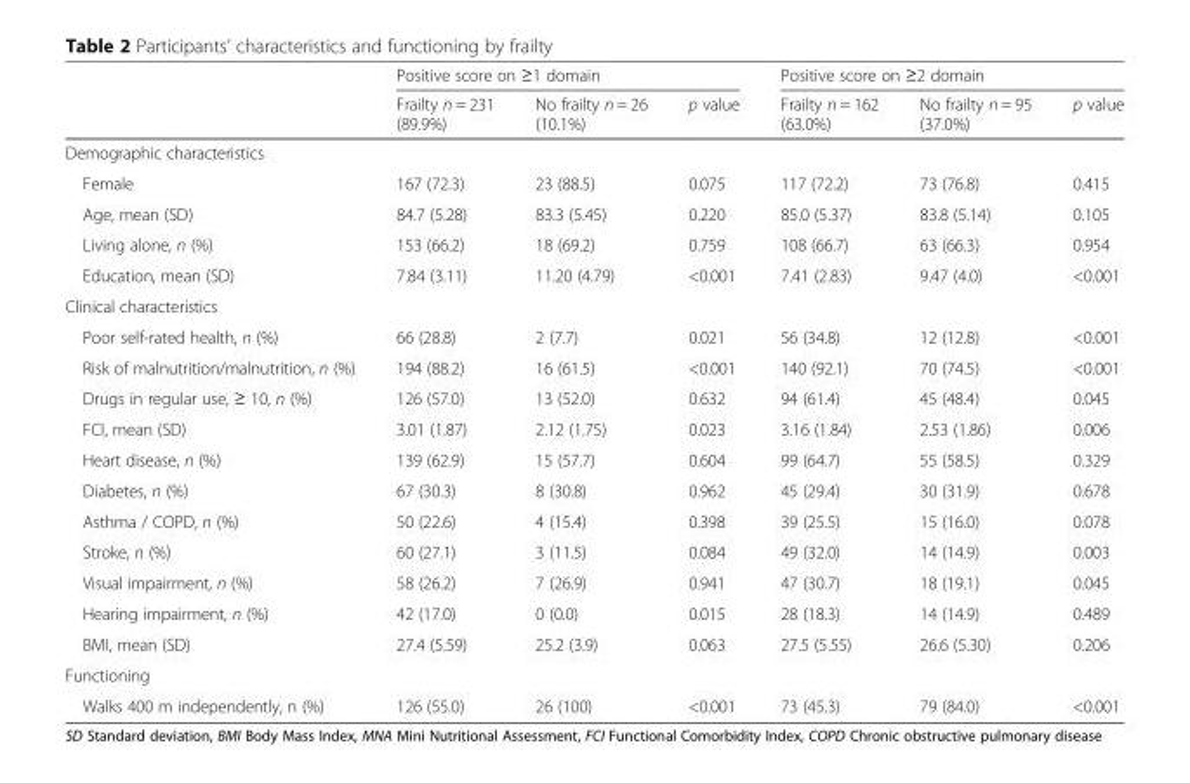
<table><thead><tr><td rowspan="2"></td><td colspan="3">Positive score on ≥1 domain</td><td colspan="3">Positive score on ≥2 domain</td></tr><tr><td>Frailty n = 231 (89.9%)</td><td>No frailty n = 26 (10.1%)</td><td>p value</td><td>Frailty n = 162 (63.0%)</td><td>No frailty n = 95 (37.0%)</td><td>p value</td></tr></thead><tbody><tr><td colspan="7">Demographic characteristics</td></tr><tr><td>Female</td><td>167 (72.3)</td><td>23 (88.5)</td><td>0.075</td><td>117 (72.2)</td><td>73 (76.8)</td><td>0.415</td></tr><tr><td>Age, mean (SD)</td><td>84.7 (5.28)</td><td>83.3 (5.45)</td><td>0.220</td><td>85.0 (5.37)</td><td>83.8 (5.14)</td><td>0.105</td></tr><tr><td>Living alone, n (%)</td><td>153 (66.2)</td><td>18 (69.2)</td><td>0.759</td><td>108 (66.7)</td><td>63 (66.3)</td><td>0.954</td></tr><tr><td>Education, mean (SD)</td><td>7.84 (3.11)</td><td>11.20 (4.79)</td><td>&lt;0.001</td><td>7.41 (2.83)</td><td>9.47 (4.0)</td><td>&lt;0.001</td></tr><tr><td colspan="7">Clinical characteristics</td></tr><tr><td>Poor self-rated health, n (%)</td><td>66 (28.8)</td><td>2 (7.7)</td><td>0.021</td><td>56 (34.8)</td><td>12 (12.8)</td><td>&lt;0.001</td></tr><tr><td>Risk of malnutrition/malnutrition, n (%)</td><td>194 (88.2)</td><td>16 (61.5)</td><td>&lt;0.001</td><td>140 (92.1)</td><td>70 (74.5)</td><td>&lt;0.001</td></tr><tr><td>Drugs in regular use, ≥ 10, n (%)</td><td>126 (57.0)</td><td>13 (52.0)</td><td>0.632</td><td>94 (61.4)</td><td>45 (48.4)</td><td>0.045</td></tr><tr><td>FCI, mean (SD)</td><td>3.01 (1.87)</td><td>2.12 (1.75)</td><td>0.023</td><td>3.16 (1.84)</td><td>2.53 (1.86)</td><td>0.006</td></tr><tr><td>Heart disease, n (%)</td><td>139 (62.9)</td><td>15 (57.7)</td><td>0.604</td><td>99 (64.7)</td><td>55 (58.5)</td><td>0.329</td></tr><tr><td>Diabetes, n (%)</td><td>67 (30.3)</td><td>8 (30.8)</td><td>0.962</td><td>45 (29.4)</td><td>30 (31.9)</td><td>0.678</td></tr><tr><td>Asthma / COPD, n (%)</td><td>50 (22.6)</td><td>4 (15.4)</td><td>0.398</td><td>39 (25.5)</td><td>15 (16.0)</td><td>0.078</td></tr><tr><td>Stroke, n (%)</td><td>60 (27.1)</td><td>3 (11.5)</td><td>0.084</td><td>49 (32.0)</td><td>14 (14.9)</td><td>0.003</td></tr><tr><td>Visual impairment, n (%)</td><td>58 (26.2)</td><td>7 (26.9)</td><td>0.941</td><td>47 (30.7)</td><td>18 (19.1)</td><td>0.045</td></tr><tr><td>Hearing impairment, n (%)</td><td>42 (17.0)</td><td>0 (0.0)</td><td>0.015</td><td>28 (18.3)</td><td>14 (14.9)</td><td>0.489</td></tr><tr><td>BMI, mean (SD)</td><td>27.4 (5.59)</td><td>25.2 (3.9)</td><td>0.063</td><td>27.5 (5.55)</td><td>26.6 (5.30)</td><td>0.206</td></tr><tr><td colspan="7">Functioning</td></tr><tr><td>Walks 400 m independently, n (%)</td><td>126 (55.0)</td><td>26 (100)</td><td>&lt;0.001</td><td>73 (45.3)</td><td>79 (84.0)</td><td>&lt;0.001</td></tr></tbody></table>